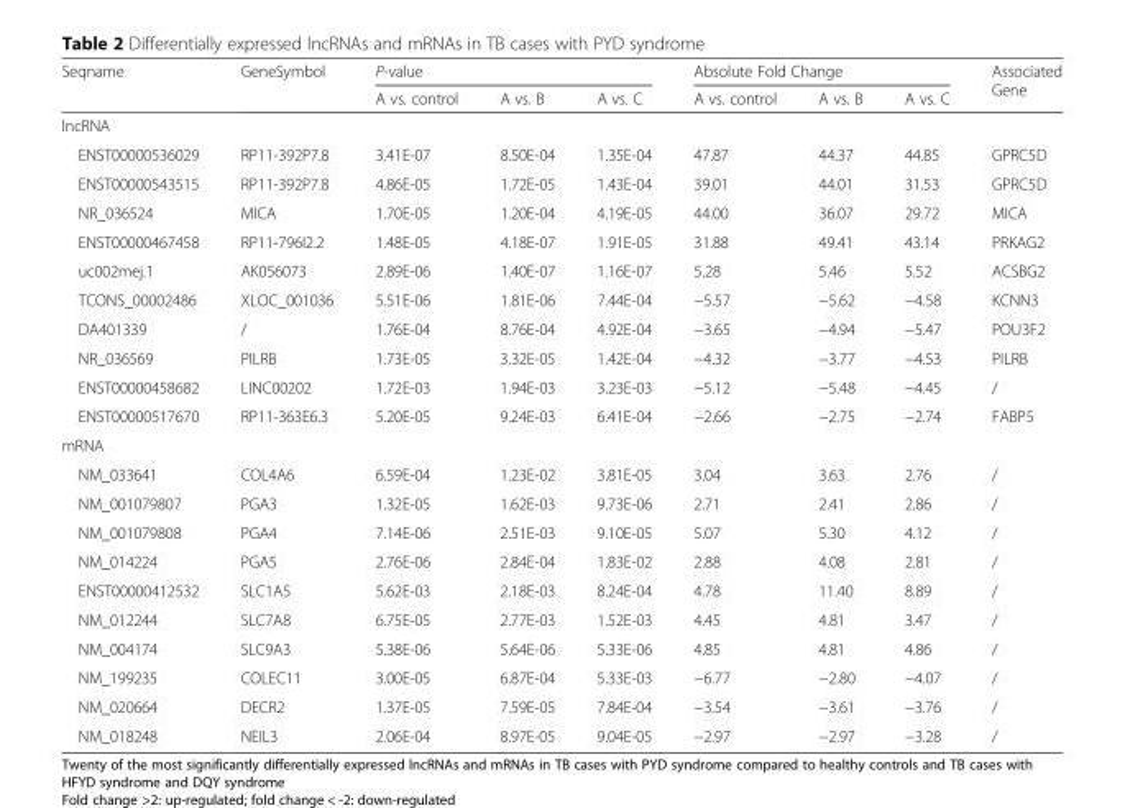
<table><thead><tr><td rowspan="2">Seqname</td><td rowspan="2">GeneSymbol</td><td colspan="3">P-value</td><td colspan="3">Absolute Fold Change</td><td rowspan="2">Associated Gene</td></tr><tr><td>A vs. control</td><td>A vs. B</td><td>A vs. C</td><td>A vs. control</td><td>A vs. B</td><td>A vs. C</td></tr></thead><tbody><tr><td colspan="9">lncRNA</td></tr><tr><td>ENST00000536029</td><td>RP11-392P7.8</td><td>3.41E-07</td><td>8.50E-04</td><td>1.35E-04</td><td>47.87</td><td>44.37</td><td>44.85</td><td>GPRC5D</td></tr><tr><td>ENST00000543515</td><td>RP11-392P7.8</td><td>4.86E-05</td><td>1.72E-05</td><td>1.43E-04</td><td>39.01</td><td>44.01</td><td>31.53</td><td>GPRC5D</td></tr><tr><td>NR_036524</td><td>MICA</td><td>1.70E-05</td><td>1.20E-04</td><td>4.19E-05</td><td>44.00</td><td>36.07</td><td>29.72</td><td>MICA</td></tr><tr><td>ENST00000467458</td><td>RP11-796I2.2</td><td>1.48E-05</td><td>4.18E-07</td><td>1.91E-05</td><td>31.88</td><td>49.41</td><td>43.14</td><td>PRKAG2</td></tr><tr><td>uc002mej.1</td><td>AK056073</td><td>2.89E-06</td><td>1.40E-07</td><td>1.16E-07</td><td>5.28</td><td>5.46</td><td>5.52</td><td>ACSBG2</td></tr><tr><td>TCONS_00002486</td><td>XLOC_001036</td><td>5.51E-06</td><td>1.81E-06</td><td>7.44E-04</td><td>−5.57</td><td>−5.62</td><td>−4.58</td><td>KCNN3</td></tr><tr><td>DA401339</td><td>/</td><td>1.76E-04</td><td>8.76E-04</td><td>4.92E-04</td><td>−3.65</td><td>−4.94</td><td>−5.47</td><td>POU3F2</td></tr><tr><td>NR_036569</td><td>PILRB</td><td>1.73E-05</td><td>3.32E-05</td><td>1.42E-04</td><td>−4.32</td><td>−3.77</td><td>−4.53</td><td>PILRB</td></tr><tr><td>ENST00000458682</td><td>LINC00202</td><td>1.72E-03</td><td>1.94E-03</td><td>3.23E-03</td><td>−5.12</td><td>−5.48</td><td>−4.45</td><td>/</td></tr><tr><td>ENST00000517670</td><td>RP11-363E6.3</td><td>5.20E-05</td><td>9.24E-03</td><td>6.41E-04</td><td>−2.66</td><td>−2.75</td><td>−2.74</td><td>FABP5</td></tr><tr><td colspan="9">mRNA</td></tr><tr><td>NM_033641</td><td>COL4A6</td><td>6.59E-04</td><td>1.23E-02</td><td>3.81E-05</td><td>3.04</td><td>3.63</td><td>2.76</td><td>/</td></tr><tr><td>NM_001079807</td><td>PGA3</td><td>1.32E-05</td><td>1.62E-03</td><td>9.73E-06</td><td>2.71</td><td>2.41</td><td>2.86</td><td>/</td></tr><tr><td>NM_001079808</td><td>PGA4</td><td>7.14E-06</td><td>2.51E-03</td><td>9.10E-05</td><td>5.07</td><td>5.30</td><td>4.12</td><td>/</td></tr><tr><td>NM_014224</td><td>PGA5</td><td>2.76E-06</td><td>2.84E-04</td><td>1.83E-02</td><td>2.88</td><td>4.08</td><td>2.81</td><td>/</td></tr><tr><td>ENST00000412532</td><td>SLC1A5</td><td>5.62E-03</td><td>2.18E-03</td><td>8.24E-04</td><td>4.78</td><td>11.40</td><td>8.89</td><td>/</td></tr><tr><td>NM_012244</td><td>SLC7A8</td><td>6.75E-05</td><td>2.77E-03</td><td>1.52E-03</td><td>4.45</td><td>4.81</td><td>3.47</td><td>/</td></tr><tr><td>NM_004174</td><td>SLC9A3</td><td>5.38E-06</td><td>5.64E-06</td><td>5.33E-06</td><td>4.85</td><td>4.81</td><td>4.86</td><td>/</td></tr><tr><td>NM_199235</td><td>COLEC11</td><td>3.00E-05</td><td>6.87E-04</td><td>5.33E-03</td><td>−6.77</td><td>−2.80</td><td>−4.07</td><td>/</td></tr><tr><td>NM_020664</td><td>DECR2</td><td>1.37E-05</td><td>7.59E-05</td><td>7.84E-04</td><td>−3.54</td><td>−3.61</td><td>−3.76</td><td>/</td></tr><tr><td>NM_018248</td><td>NEIL3</td><td>2.06E-04</td><td>8.97E-05</td><td>9.04E-05</td><td>−2.97</td><td>−2.97</td><td>−3.28</td><td>/</td></tr></tbody></table>